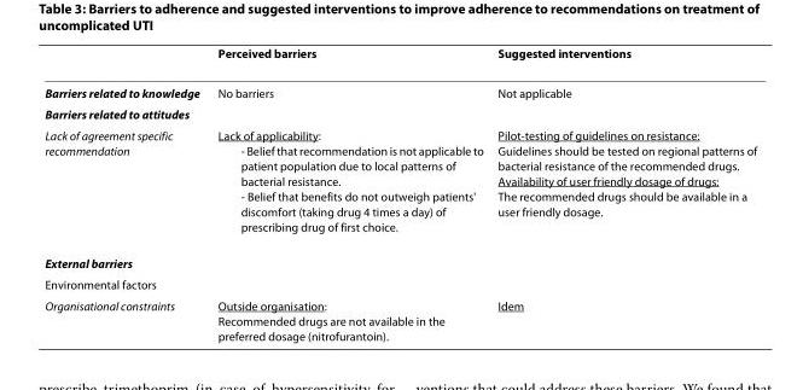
<table><thead><tr><td></td><td>Perceived barriers</td><td>Suggested interventions</td></tr></thead><tbody><tr><td>Barriers related to knowledge</td><td>No barriers</td><td>Not applicable</td></tr><tr><td colspan="3">Barriers related to attitudes</td></tr><tr><td>Lack of agreement specific recommendation</td><td>Lack of applicability: - Belief that recommendation is not applicable to patient population due to local patterns of bacterial resistance. - Belief that benefits do not outweigh patients&#x27; discomfort (taking drug 4 times a day) of prescribing drug of first choice.</td><td>Pilot-testing of guidelines on resistance: Guidelines should be tested on regional patterns of bacterial resistance of the recommended drugs. Availability of user friendly dosage of drugs: The recommended drugs should be available in a user friendly dosage.</td></tr><tr><td colspan="3">External barriers</td></tr><tr><td colspan="3">Environmental factors</td></tr><tr><td>Organisational constraints</td><td>Outside organisation: Recommended drugs are not available in the preferred dosage (nitrofurantoin).</td><td>Idem</td></tr></tbody></table>